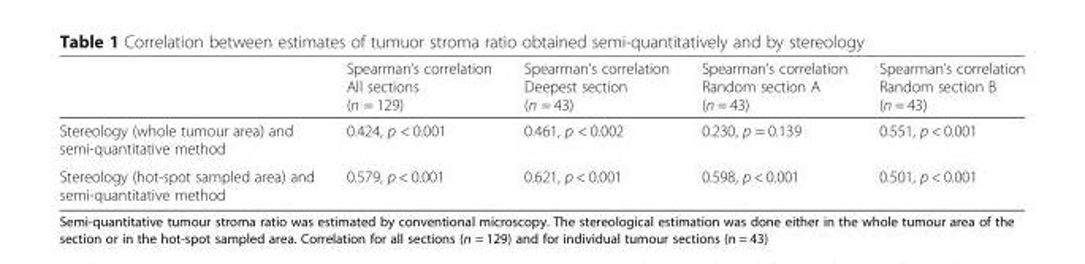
<table><thead><tr><td></td><td>Spearman’s correlation All sections (n = 129)</td><td>Spearman’s correlation Deepest section (n = 43)</td><td>Spearman’s correlation Random section A (n = 43)</td><td>Spearman’s correlation Random section B (n = 43)</td></tr></thead><tbody><tr><td>Stereology (whole tumour area) and semi-quantitative method</td><td>0.424, p &lt; 0.001</td><td>0.461, p &lt; 0.002</td><td>0.230, p = 0.139</td><td>0.551, p &lt; 0.001</td></tr><tr><td>Stereology (hot-spot sampled area) and semi-quantitative method</td><td>0.579, p &lt; 0.001</td><td>0.621, p &lt; 0.001</td><td>0.598, p &lt; 0.001</td><td>0.501, p &lt; 0.001</td></tr></tbody></table>